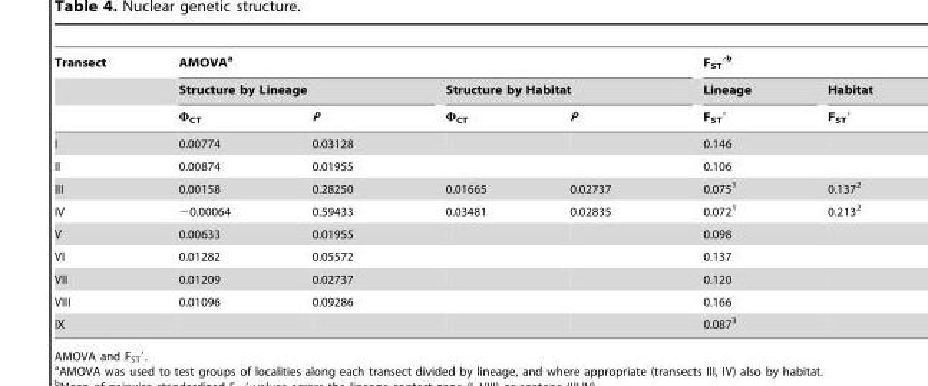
<table><thead><tr><td rowspan="3">Transect</td><td colspan="4">AMOVA<sup>a</sup></td><td colspan="2">F<sub>ST</sub>′<sup>b</sup></td></tr><tr><td colspan="2">Structure by Lineage</td><td colspan="2">Structure by Habitat</td><td rowspan="2">Lineage F<sub>ST</sub>′</td><td rowspan="2">Habitat F<sub>ST</sub>′</td></tr><tr><td>Φ<sub>CT</sub></td><td>P</td><td>Φ<sub>CT</sub></td><td>P</td></tr></thead><tbody><tr><td>I</td><td>0.00774</td><td>0.03128</td><td></td><td></td><td>0.146</td><td></td></tr><tr><td>II</td><td>0.00874</td><td>0.01955</td><td></td><td></td><td>0.106</td><td></td></tr><tr><td>III</td><td>0.00158</td><td>0.28250</td><td>0.01665</td><td>0.02737</td><td>0.075<sup>1</sup></td><td>0.137<sup>2</sup></td></tr><tr><td>IV</td><td>−0.00064</td><td>0.59433</td><td>0.03481</td><td>0.02835</td><td>0.072<sup>1</sup></td><td>0.213<sup>2</sup></td></tr><tr><td>V</td><td>0.00633</td><td>0.01955</td><td></td><td></td><td>0.098</td><td></td></tr><tr><td>VI</td><td>0.01282</td><td>0.05572</td><td></td><td></td><td>0.137</td><td></td></tr><tr><td>VII</td><td>0.01209</td><td>0.02737</td><td></td><td></td><td>0.120</td><td></td></tr><tr><td>VIII</td><td>0.01096</td><td>0.09286</td><td></td><td></td><td>0.166</td><td></td></tr><tr><td>IX</td><td></td><td></td><td></td><td></td><td>0.087<sup>3</sup></td><td></td></tr></tbody></table>